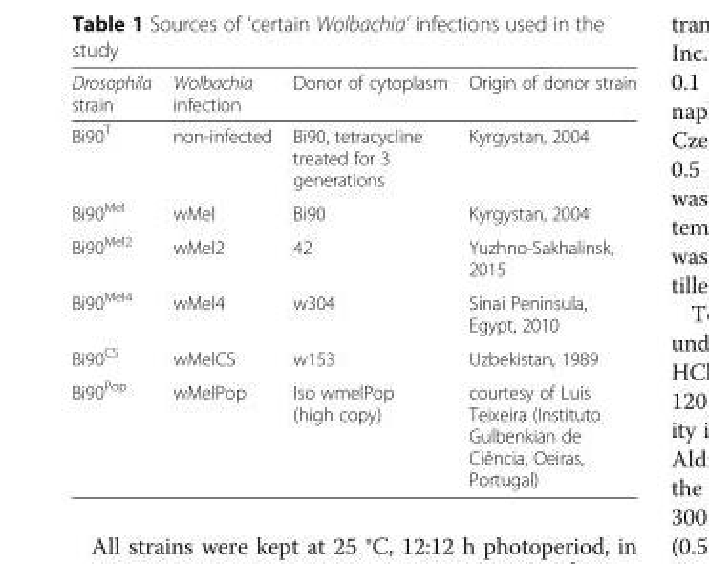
<table><thead><tr><td>Drosophila strain</td><td>Wolbachia infection</td><td>Donor of cytoplasm</td><td>Origin of donor strain</td></tr></thead><tbody><tr><td>Bi90<sup>T</sup></td><td>non-infected</td><td>Bi90, tetracycline treated for 3 generations</td><td>Kyrgystan, 2004</td></tr><tr><td>Bi90<sup>Mel</sup></td><td>wMel</td><td>Bi90</td><td>Kyrgystan, 2004</td></tr><tr><td>Bi90<sup>Mel2</sup></td><td>wMel2</td><td>42</td><td>Yuzhno-Sakhalinsk, 2015</td></tr><tr><td>Bi90<sup>Mel4</sup></td><td>wMel4</td><td>w304</td><td>Sinai Peninsula, Egypt, 2010</td></tr><tr><td>Bi90<sup>CS</sup></td><td>wMelCS</td><td>w153</td><td>Uzbekistan, 1989</td></tr><tr><td>Bi90<sup>Pop</sup></td><td>wMelPop</td><td>Iso wmelPop (high copy)</td><td>courtesy of Luis Teixeira (Instituto Gulbenkian de Ciência, Oeiras, Portugal)</td></tr></tbody></table>